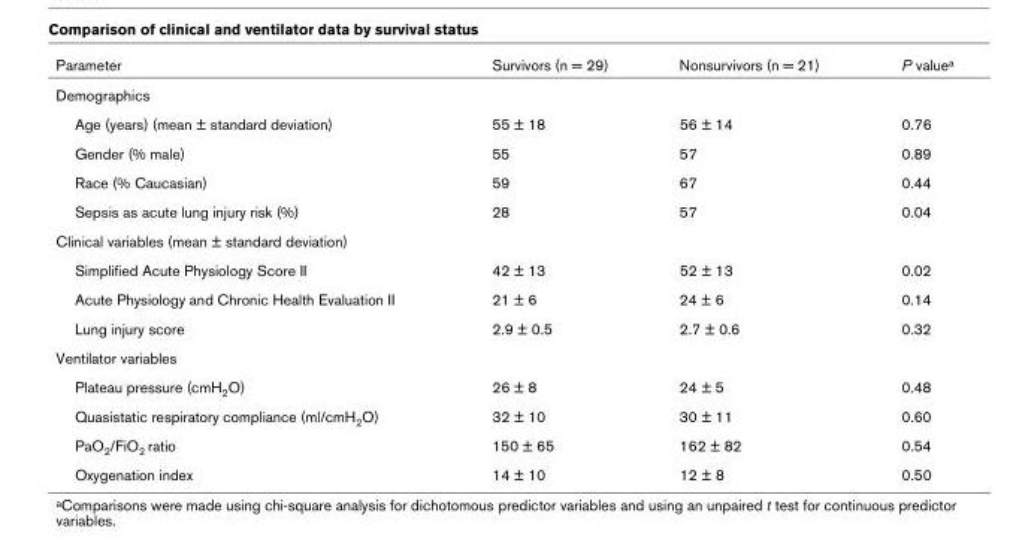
<table><thead><tr><td>Parameter</td><td>Survivors (n = 29)</td><td>Nonsurvivors (n = 21)</td><td>P value<sup>a</sup></td></tr></thead><tbody><tr><td colspan="4">Demographics</td></tr><tr><td>Age (years) (mean ± standard deviation)</td><td>55 ± 18</td><td>56 ± 14</td><td>0.76</td></tr><tr><td>Gender (% male)</td><td>55</td><td>57</td><td>0.89</td></tr><tr><td>Race (% Caucasian)</td><td>59</td><td>67</td><td>0.44</td></tr><tr><td>Sepsis as acute lung injury risk (%)</td><td>28</td><td>57</td><td>0.04</td></tr><tr><td colspan="4">Clinical variables (mean ± standard deviation)</td></tr><tr><td>Simplified Acute Physiology Score II</td><td>42 ± 13</td><td>52 ± 13</td><td>0.02</td></tr><tr><td>Acute Physiology and Chronic Health Evaluation II</td><td>21 ± 6</td><td>24 ± 6</td><td>0.14</td></tr><tr><td>Lung injury score</td><td>2.9 ± 0.5</td><td>2.7 ± 0.6</td><td>0.32</td></tr><tr><td colspan="4">Ventilator variables</td></tr><tr><td>Plateau pressure (cmH<sub>2</sub>O)</td><td>26 ± 8</td><td>24 ± 5</td><td>0.48</td></tr><tr><td>Quasistatic respiratory compliance (ml/cmH<sub>2</sub>O)</td><td>32 ± 10</td><td>30 ± 11</td><td>0.60</td></tr><tr><td>PaO<sub>2</sub>/FiO<sub>2</sub> ratio</td><td>150 ± 65</td><td>162 ± 82</td><td>0.54</td></tr><tr><td>Oxygenation index</td><td>14 ± 10</td><td>12 ± 8</td><td>0.50</td></tr></tbody></table>